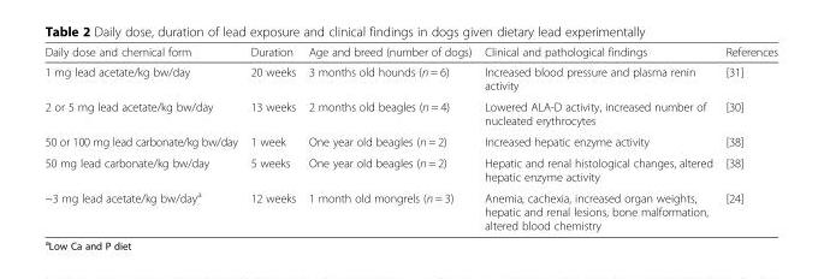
<table><thead><tr><td>Daily dose and chemical form</td><td>Duration</td><td>Age and breed (number of dogs)</td><td>Clinical and pathological findings</td><td>References</td></tr></thead><tbody><tr><td>1 mg lead acetate/kg bw/day</td><td>20 weeks</td><td>3 months old hounds (n = 6)</td><td>Increased blood pressure and plasma renin activity</td><td>[31]</td></tr><tr><td>2 or 5 mg lead acetate/kg bw/day</td><td>13 weeks</td><td>2 months old beagles (n = 4)</td><td>Lowered ALA-D activity, increased number of nucleated erythrocytes</td><td>[30]</td></tr><tr><td>50 or 100 mg lead carbonate/kg bw/day</td><td>1 week</td><td>One year old beagles (n = 2)</td><td>Increased hepatic enzyme activity</td><td>[38]</td></tr><tr><td>50 mg lead carbonate/kg bw/day</td><td>5 weeks</td><td>One year old beagles (n = 2)</td><td>Hepatic and renal histological changes, altered hepatic enzyme activity</td><td>[38]</td></tr><tr><td>~3 mg lead acetate/kg bw/day<sup>a</sup></td><td>12 weeks</td><td>1 month old mongrels (n = 3)</td><td>Anemia, cachexia, increased organ weights, hepatic and renal lesions, bone malformation, altered blood chemistry</td><td>[24]</td></tr></tbody></table>